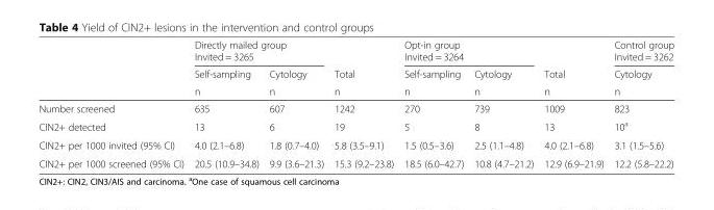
<table><thead><tr><td rowspan="3"></td><td colspan="2">Directly mailed group Invited = 3265</td><td rowspan="3">Total n</td><td colspan="2">Opt-in group Invited = 3264</td><td rowspan="3">Total n</td><td rowspan="3">Control group Invited = 3262 Cytology n</td></tr><tr><td rowspan="2">Self-sampling n</td><td rowspan="2">Cytology n</td><td rowspan="2">Self-sampling n</td><td rowspan="2">Cytology n</td></tr><tr></tr></thead><tbody><tr><td>Number screened</td><td>635</td><td>607</td><td>1242</td><td>270</td><td>739</td><td>1009</td><td>823</td></tr><tr><td>CIN2+ detected</td><td>13</td><td>6</td><td>19</td><td>5</td><td>8</td><td>13</td><td>10<sup>a</sup></td></tr><tr><td>CIN2+ per 1000 invited (95% CI)</td><td>4.0 (2.1–6.8)</td><td>1.8 (0.7–4.0)</td><td>5.8 (3.5–9.1)</td><td>1.5 (0.5–3.6)</td><td>2.5 (1.1–4.8)</td><td>4.0 (2.1–6.8)</td><td>3.1 (1.5–5.6)</td></tr><tr><td>CIN2+ per 1000 screened (95% CI)</td><td>20.5 (10.9–34.8)</td><td>9.9 (3.6–21.3)</td><td>15.3 (9.2–23.8)</td><td>18.5 (6.0–42.7)</td><td>10.8 (4.7–21.2)</td><td>12.9 (6.9–21.9)</td><td>12.2 (5.8–22.2)</td></tr></tbody></table>